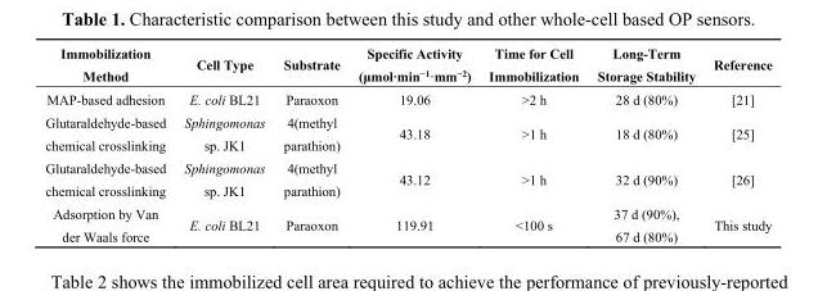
<table><thead><tr><td>Immobilization Method</td><td>Cell Type</td><td>Substrate</td><td>Specific Activity (μmol·min<sup>−1</sup>·mm<sup>−2</sup>)</td><td>Time for Cell Immobilization</td><td>Long-Term Storage Stability</td><td>Reference</td></tr></thead><tbody><tr><td>MAP-based adhesion</td><td>E. coli BL21</td><td>Paraoxon</td><td>19.06</td><td>&gt;2 h</td><td>28 d (80%)</td><td>[21]</td></tr><tr><td>Glutaraldehyde-based chemical crosslinking</td><td>Sphingomonas sp. JK1</td><td>4(methyl parathion)</td><td>43.18</td><td>&gt;1 h</td><td>18 d (80%)</td><td>[25]</td></tr><tr><td>Glutaraldehyde-based chemical crosslinking</td><td>Sphingomonas sp. JK1</td><td>4(methyl parathion)</td><td>43.12</td><td>&gt;1 h</td><td>32 d (90%)</td><td>[26]</td></tr><tr><td>Adsorption by Van der Waals force</td><td>E. coli BL21</td><td>Paraoxon</td><td>119.91</td><td>&lt;100 s</td><td>37 d (90%), 67 d (80%)</td><td>This study</td></tr></tbody></table>